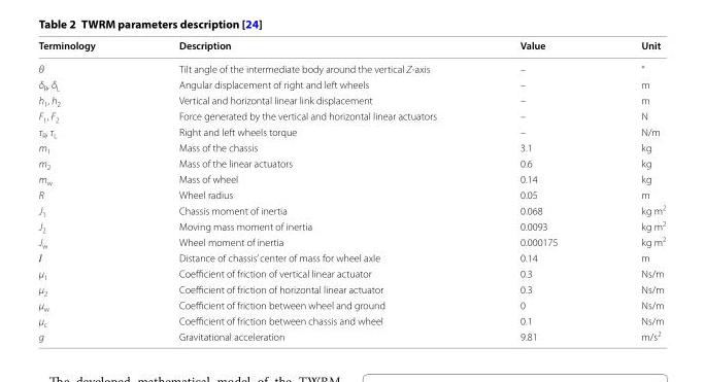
<table><thead><tr><td>Terminology</td><td>Description</td><td>Value</td><td>Unit</td></tr></thead><tbody><tr><td>θ</td><td>Tilt angle of the intermediate body around the vertical Z-axis</td><td>–</td><td>°</td></tr><tr><td>δ<sub>R</sub>, δ<sub>L</sub></td><td>Angular displacement of right and left wheels</td><td>–</td><td>m</td></tr><tr><td>h<sub>1</sub>, h<sub>2</sub></td><td>Vertical and horizontal linear link displacement</td><td>–</td><td>m</td></tr><tr><td>F<sub>1</sub>, F<sub>2</sub></td><td>Force generated by the vertical and horizontal linear actuators</td><td>–</td><td>N</td></tr><tr><td>τ<sub>R</sub>, τ<sub>L</sub></td><td>Right and left wheels torque</td><td>–</td><td>N/m</td></tr><tr><td>m<sub>1</sub></td><td>Mass of the chassis</td><td>3.1</td><td>kg</td></tr><tr><td>m<sub>2</sub></td><td>Mass of the linear actuators</td><td>0.6</td><td>kg</td></tr><tr><td>m<sub>w</sub></td><td>Mass of wheel</td><td>0.14</td><td>kg</td></tr><tr><td>R</td><td>Wheel radius</td><td>0.05</td><td>m</td></tr><tr><td>J<sub>1</sub></td><td>Chassis moment of inertia</td><td>0.068</td><td>kg m<sup>2</sup></td></tr><tr><td>J<sub>2</sub></td><td>Moving mass moment of inertia</td><td>0.0093</td><td>kg m<sup>2</sup></td></tr><tr><td>J<sub>w</sub></td><td>Wheel moment of inertia</td><td>0.000175</td><td>kg m<sup>2</sup></td></tr><tr><td>Ɩ</td><td>Distance of chassis’ center of mass for wheel axle</td><td>0.14</td><td>m</td></tr><tr><td>µ<sub>1</sub></td><td>Coefficient of friction of vertical linear actuator</td><td>0.3</td><td>Ns/m</td></tr><tr><td>µ<sub>2</sub></td><td>Coefficient of friction of horizontal linear actuator</td><td>0.3</td><td>Ns/m</td></tr><tr><td>µ<sub>w</sub></td><td>Coefficient of friction between wheel and ground</td><td>0</td><td>Ns/m</td></tr><tr><td>µ<sub>c</sub></td><td>Coefficient of friction between chassis and wheel</td><td>0.1</td><td>Ns/m</td></tr><tr><td>g</td><td>Gravitational acceleration</td><td>9.81</td><td>m/s<sup>2</sup></td></tr></tbody></table>